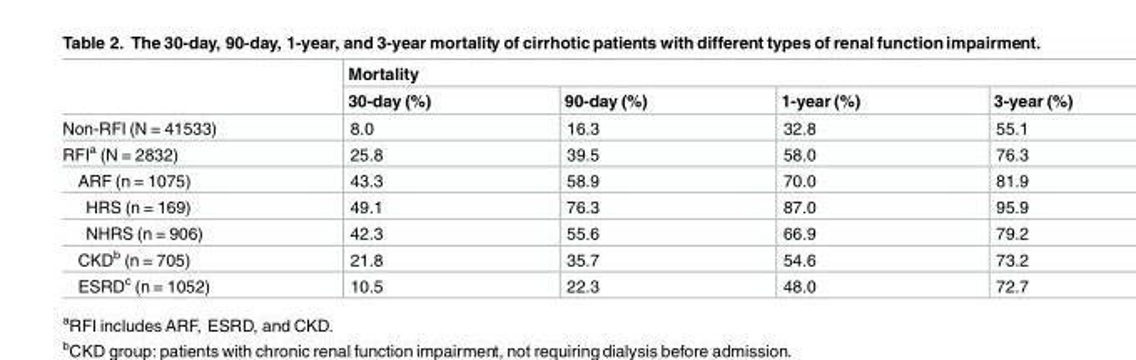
<table><thead><tr><td rowspan="2"></td><td colspan="4">Mortality</td></tr><tr><td>30-day (%)</td><td>90-day (%)</td><td>1-year (%)</td><td>3-year (%)</td></tr></thead><tbody><tr><td>Non-RFI (N = 41533)</td><td>8.0</td><td>16.3</td><td>32.8</td><td>55.1</td></tr><tr><td>RFI<sup>a</sup> (N = 2832)</td><td>25.8</td><td>39.5</td><td>58.0</td><td>76.3</td></tr><tr><td>ARF (n = 1075)</td><td>43.3</td><td>58.9</td><td>70.0</td><td>81.9</td></tr><tr><td>HRS (n = 169)</td><td>49.1</td><td>76.3</td><td>87.0</td><td>95.9</td></tr><tr><td>NHRS (n = 906)</td><td>42.3</td><td>55.6</td><td>66.9</td><td>79.2</td></tr><tr><td>CKD<sup>b</sup> (n = 705)</td><td>21.8</td><td>35.7</td><td>54.6</td><td>73.2</td></tr><tr><td>ESRD<sup>c</sup> (n = 1052)</td><td>10.5</td><td>22.3</td><td>48.0</td><td>72.7</td></tr></tbody></table>